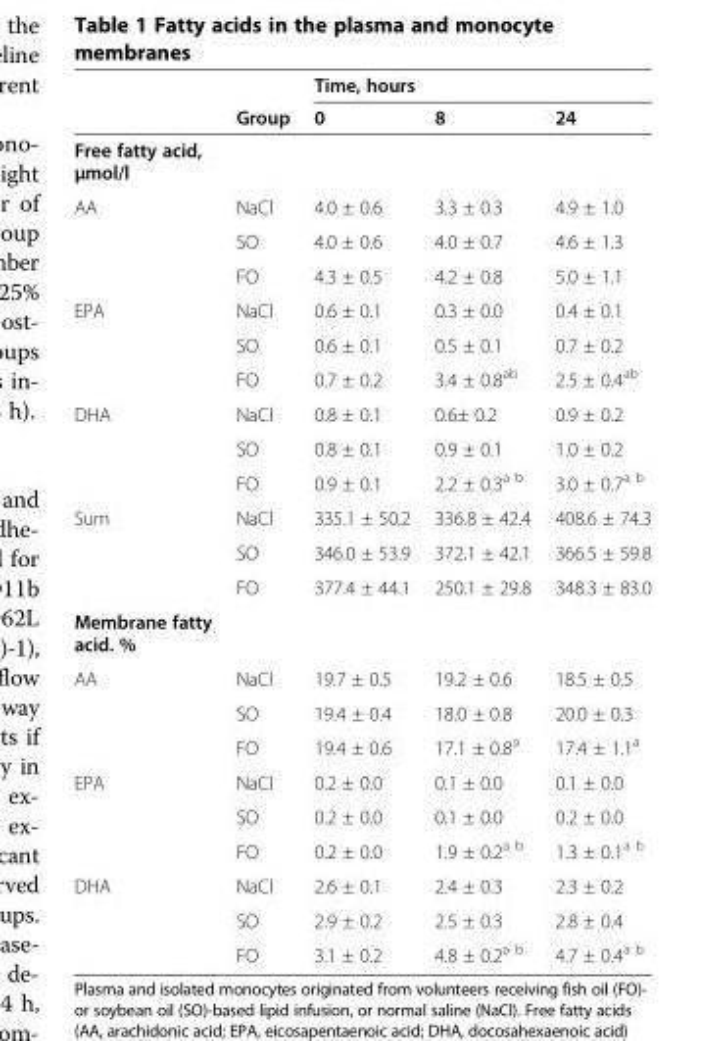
<table><thead><tr><td rowspan="2"></td><td rowspan="2">Group</td><td colspan="3">Time, hours</td></tr><tr><td>0</td><td>8</td><td>24</td></tr></thead><tbody><tr><td colspan="5">Free fatty acid, μmol/l</td></tr><tr><td rowspan="3">AA</td><td>NaCl</td><td>4.0 ± 0.6</td><td>3.3 ± 0.3</td><td>4.9 ± 1.0</td></tr><tr><td>SO</td><td>4.0 ± 0.6</td><td>4.0 ± 0.7</td><td>4.6 ± 1.3</td></tr><tr><td>FO</td><td>4.3 ± 0.5</td><td>4.2 ± 0.8</td><td>5.0 ± 1.1</td></tr><tr><td rowspan="3">EPA</td><td>NaCl</td><td>0.6 ± 0.1</td><td>0.3 ± 0.0</td><td>0.4 ± 0.1</td></tr><tr><td>SO</td><td>0.6 ± 0.1</td><td>0.5 ± 0.1</td><td>0.7 ± 0.2</td></tr><tr><td>FO</td><td>0.7 ± 0.2</td><td>3.4 ± 0.8<sup>ab</sup></td><td>2.5 ± 0.4<sup>ab</sup></td></tr><tr><td rowspan="3">DHA</td><td>NaCl</td><td>0.8 ± 0.1</td><td>0.6± 0.2</td><td>0.9 ± 0.2</td></tr><tr><td>SO</td><td>0.8 ± 0.1</td><td>0.9 ± 0.1</td><td>1.0 ± 0.2</td></tr><tr><td>FO</td><td>0.9 ± 0.1</td><td>2.2 ± 0.3<sup>a b</sup></td><td>3.0 ± 0.7<sup>a b</sup></td></tr><tr><td rowspan="3">Sum</td><td>NaCl</td><td>335.1 ± 50.2</td><td>336.8 ± 42.4</td><td>408.6 ± 74.3</td></tr><tr><td>SO</td><td>346.0 ± 53.9</td><td>372.1 ± 42.1</td><td>366.5 ± 59.8</td></tr><tr><td>FO</td><td>377.4 ± 44.1</td><td>250.1 ± 29.8</td><td>348.3 ± 83.0</td></tr><tr><td colspan="5">Membrane fatty acid. %</td></tr><tr><td rowspan="3">AA</td><td>NaCl</td><td>19.7 ± 0.5</td><td>19.2 ± 0.6</td><td>18.5 ± 0.5</td></tr><tr><td>SO</td><td>19.4 ± 0.4</td><td>18.0 ± 0.8</td><td>20.0 ± 0.3</td></tr><tr><td>FO</td><td>19.4 ± 0.6</td><td>17.1 ± 0.8<sup>a</sup></td><td>17.4 ± 1.1<sup>a</sup></td></tr><tr><td rowspan="3">EPA</td><td>NaCl</td><td>0.2 ± 0.0</td><td>0.1 ± 0.0</td><td>0.1 ± 0.0</td></tr><tr><td>SO</td><td>0.2 ± 0.0</td><td>0.1 ± 0.0</td><td>0.2 ± 0.0</td></tr><tr><td>FO</td><td>0.2 ± 0.0</td><td>1.9 ± 0.2<sup>a b</sup></td><td>1.3 ± 0.1<sup>a b</sup></td></tr><tr><td rowspan="3">DHA</td><td>NaCl</td><td>2.6 ± 0.1</td><td>2.4 ± 0.3</td><td>2.3 ± 0.2</td></tr><tr><td>SO</td><td>2.9 ± 0.2</td><td>2.5 ± 0.3</td><td>2.8 ± 0.4</td></tr><tr><td>FO</td><td>3.1 ± 0.2</td><td>4.8 ± 0.2<sup>a b</sup></td><td>4.7 ± 0.4<sup>a b</sup></td></tr></tbody></table>